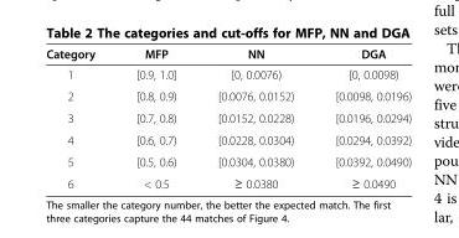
<table><thead><tr><td>Category</td><td>MFP</td><td>NN</td><td>DGA</td></tr></thead><tbody><tr><td>1</td><td>[0.9, 1.0]</td><td>[0, 0.0076)</td><td>[0, 0.0098)</td></tr><tr><td>2</td><td>[0.8, 0.9)</td><td>[0.0076, 0.0152)</td><td>[0.0098, 0.0196)</td></tr><tr><td>3</td><td>[0.7, 0.8)</td><td>[0.0152, 0.0228)</td><td>[0.0196, 0.0294)</td></tr><tr><td>4</td><td>[0.6, 0.7)</td><td>[0.0228, 0.0304)</td><td>[0.0294, 0.0392)</td></tr><tr><td>5</td><td>[0.5, 0.6)</td><td>[0.0304, 0.0380)</td><td>[0.0392, 0.0490)</td></tr><tr><td>6</td><td>&lt; 0.5</td><td>≥ 0.0380</td><td>≥ 0.0490</td></tr></tbody></table>